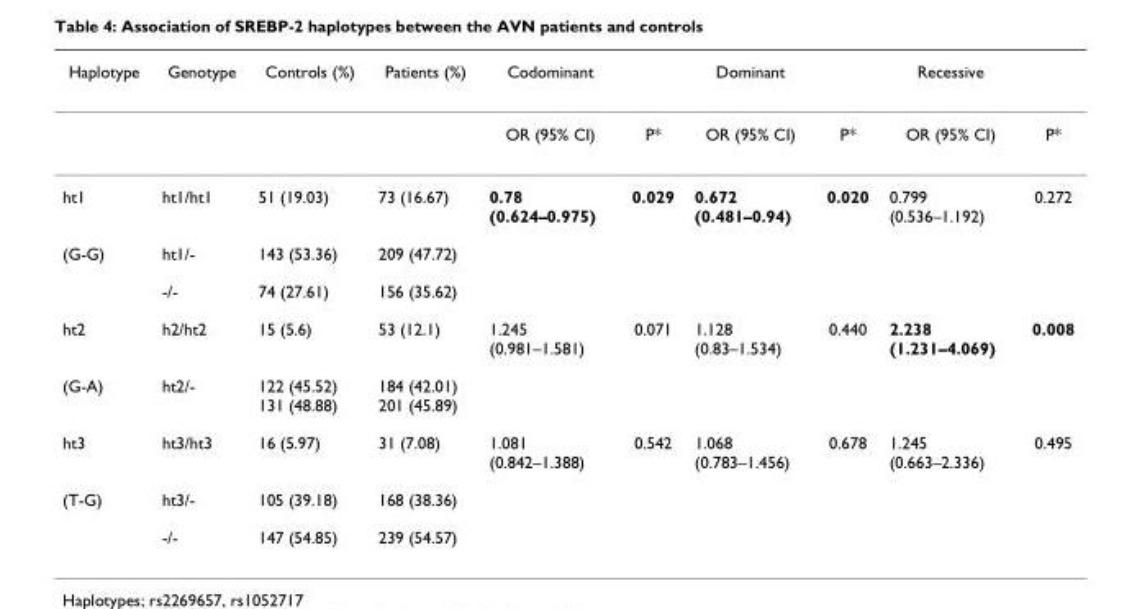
<table><thead><tr><td>Haplotype</td><td>Genotype</td><td>Controls (%)</td><td>Patients (%)</td><td>Codominant</td><td></td><td>Dominant</td><td></td><td>Recessive</td><td></td></tr></thead><tbody><tr><td></td><td></td><td></td><td></td><td>OR (95% CI)</td><td>P*</td><td>OR (95% CI)</td><td>P*</td><td>OR (95% CI)</td><td>P*</td></tr><tr><td>ht1</td><td>ht1/ht1</td><td>51 (19.03)</td><td>73 (16.67)</td><td>0.78 (0.624–0.975)</td><td>0.029</td><td>0.672 (0.481–0.94)</td><td>0.020</td><td>0.799 (0.536–1.192)</td><td>0.272</td></tr><tr><td rowspan="2">(G-G)</td><td>ht1/-</td><td>143 (53.36)</td><td>209 (47.72)</td><td></td><td></td><td></td><td></td><td></td><td></td></tr><tr><td>-/-</td><td>74 (27.61)</td><td>156 (35.62)</td><td></td><td></td><td></td><td></td><td></td><td></td></tr><tr><td>ht2</td><td>h2/ht2</td><td>15 (5.6)</td><td>53 (12.1)</td><td>1.245 (0.981–1.581)</td><td>0.071</td><td>1.128 (0.83–1.534)</td><td>0.440</td><td>2.238 (1.231–4.069)</td><td>0.008</td></tr><tr><td>(G-A)</td><td>ht2/-</td><td>122 (45.52) 131 (48.88)</td><td>184 (42.01) 201 (45.89)</td><td></td><td></td><td></td><td></td><td></td><td></td></tr><tr><td>ht3</td><td>ht3/ht3</td><td>16 (5.97)</td><td>31 (7.08)</td><td>1.081 (0.842–1.388)</td><td>0.542</td><td>1.068 (0.783–1.456)</td><td>0.678</td><td>1.245 (0.663–2.336)</td><td>0.495</td></tr><tr><td rowspan="2">(T-G)</td><td>ht3/-</td><td>105 (39.18)</td><td>168 (38.36)</td><td></td><td></td><td></td><td></td><td></td><td></td></tr><tr><td>-/-</td><td>147 (54.85)</td><td>239 (54.57)</td><td></td><td></td><td></td><td></td><td></td><td></td></tr></tbody></table>